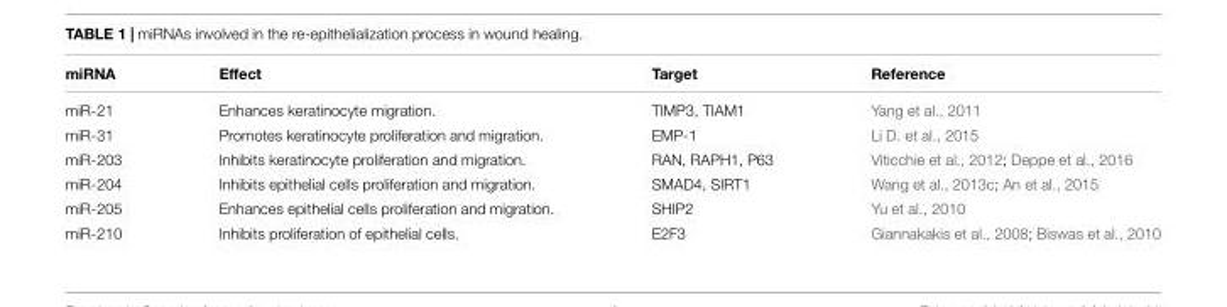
<table><thead><tr><td>miRNA</td><td>Effect</td><td>Target</td><td>Reference</td></tr></thead><tbody><tr><td>miR-21</td><td>Enhances keratinocyte migration.</td><td>TIMP3, TIAM1</td><td>Yang et al., 2011</td></tr><tr><td>miR-31</td><td>Promotes keratinocyte proliferation and migration.</td><td>EMP-1</td><td>Li D. et al., 2015</td></tr><tr><td>miR-203</td><td>Inhibits keratinocyte proliferation and migration.</td><td>RAN, RAPH1, P63</td><td>Viticchie et al., 2012; Deppe et al., 2016</td></tr><tr><td>miR-204</td><td>Inhibits epithelial cells proliferation and migration.</td><td>SMAD4, SIRT1</td><td>Wang et al., 2013c; An et al., 2015</td></tr><tr><td>miR-205</td><td>Enhances epithelial cells proliferation and migration.</td><td>SHIP2</td><td>Yu et al., 2010</td></tr><tr><td>miR-210</td><td>Inhibits proliferation of epithelial cells.</td><td>E2F3</td><td>Giannakakis et al., 2008; Biswas et al., 2010</td></tr></tbody></table>